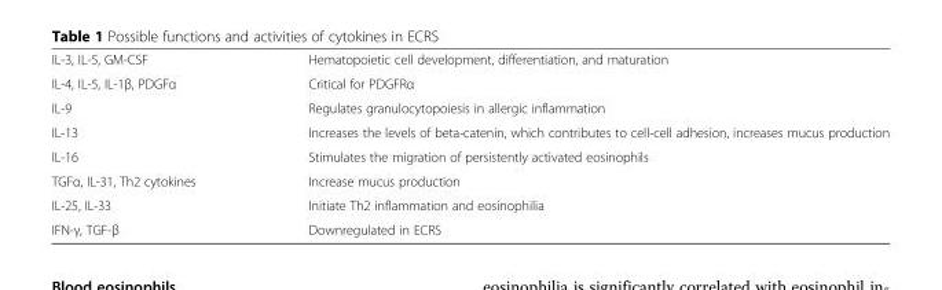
<table><tbody><tr><td>IL-3, IL-5, GM-CSF</td><td>Hematopoietic cell development, differentiation, and maturation</td></tr><tr><td>IL-4, IL-5, IL-1β, PDGFα</td><td>Critical for PDGFRα</td></tr><tr><td>IL-9</td><td>Regulates granulocytopoiesis in allergic inflammation</td></tr><tr><td>IL-13</td><td>Increases the levels of beta-catenin, which contributes to cell-cell adhesion, increases mucus production</td></tr><tr><td>IL-16</td><td>Stimulates the migration of persistently activated eosinophils</td></tr><tr><td>TGFα, IL-31, Th2 cytokines</td><td>Increase mucus production</td></tr><tr><td>IL-25, IL-33</td><td>Initiate Th2 inflammation and eosinophilia</td></tr><tr><td>IFN-γ, TGF-β</td><td>Downregulated in ECRS</td></tr></tbody></table>